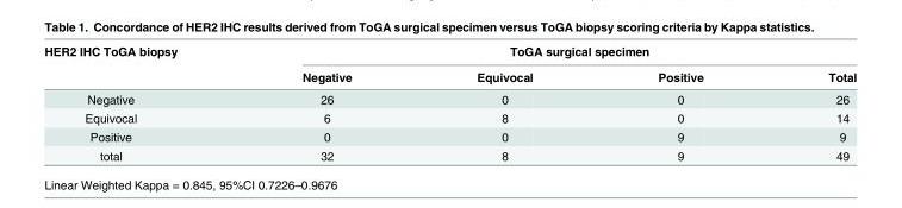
<table><thead><tr><td rowspan="2">HER2 IHC ToGA biopsy</td><td colspan="4">ToGA surgical specimen</td></tr><tr><td>Negative</td><td>Equivocal</td><td>Positive</td><td>Total</td></tr></thead><tbody><tr><td>Negative</td><td>26</td><td>0</td><td>0</td><td>26</td></tr><tr><td>Equivocal</td><td>6</td><td>8</td><td>0</td><td>14</td></tr><tr><td>Positive</td><td>0</td><td>0</td><td>9</td><td>9</td></tr><tr><td>total</td><td>32</td><td>8</td><td>9</td><td>49</td></tr></tbody></table>